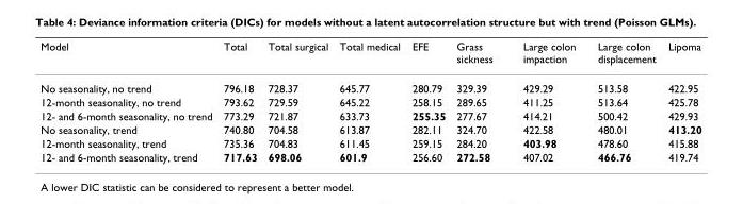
<table><thead><tr><td>Model</td><td>Total</td><td>Total surgical</td><td>Total medical</td><td>EFE</td><td>Grass sickness</td><td>Large colon impaction</td><td>Large colon displacement</td><td>Lipoma</td></tr></thead><tbody><tr><td>No seasonality, no trend</td><td>796.18</td><td>728.37</td><td>645.77</td><td>280.79</td><td>329.39</td><td>429.29</td><td>513.58</td><td>422.95</td></tr><tr><td>12-month seasonality, no trend</td><td>793.62</td><td>729.59</td><td>645.22</td><td>258.15</td><td>289.65</td><td>411.25</td><td>513.64</td><td>425.78</td></tr><tr><td>12- and 6-month seasonality, no trend</td><td>773.29</td><td>721.87</td><td>633.73</td><td>255.35</td><td>277.67</td><td>414.21</td><td>500.42</td><td>429.93</td></tr><tr><td>No seasonality, trend</td><td>740.80</td><td>704.58</td><td>613.87</td><td>282.11</td><td>324.70</td><td>422.58</td><td>480.01</td><td>413.20</td></tr><tr><td>12-month seasonality, trend</td><td>735.36</td><td>704.83</td><td>611.45</td><td>259.15</td><td>284.20</td><td>403.98</td><td>478.60</td><td>415.88</td></tr><tr><td>12- and 6-month seasonality, trend</td><td>717.63</td><td>698.06</td><td>601.9</td><td>256.60</td><td>272.58</td><td>407.02</td><td>466.76</td><td>419.74</td></tr></tbody></table>